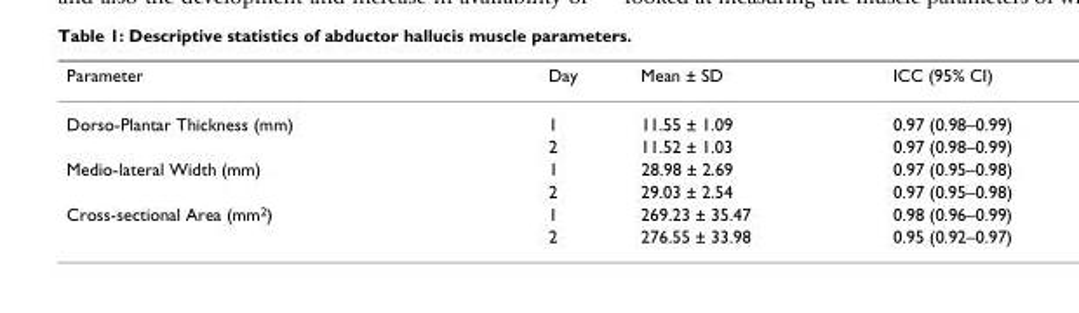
<table><thead><tr><td>Parameter</td><td>Day</td><td>Mean ± SD</td><td>ICC (95% CI)</td></tr></thead><tbody><tr><td rowspan="2">Dorso-Plantar Thickness (mm)</td><td>1</td><td>11.55 ± 1.09</td><td>0.97 (0.98–0.99)</td></tr><tr><td>2</td><td>11.52 ± 1.03</td><td>0.97 (0.98–0.99)</td></tr><tr><td rowspan="2">Medio-lateral Width (mm)</td><td>1</td><td>28.98 ± 2.69</td><td>0.97 (0.95–0.98)</td></tr><tr><td>2</td><td>29.03 ± 2.54</td><td>0.97 (0.95–0.98)</td></tr><tr><td rowspan="2">Cross-sectional Area (mm<sup>2</sup>)</td><td>1</td><td>269.23 ± 35.47</td><td>0.98 (0.96–0.99)</td></tr><tr><td>2</td><td>276.55 ± 33.98</td><td>0.95 (0.92–0.97)</td></tr></tbody></table>